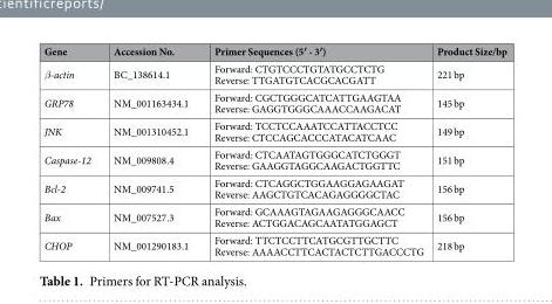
<table><thead><tr><td>Gene</td><td>Accession No.</td><td>Primer Sequences (5′ - 3′)</td><td>Product Size/bp</td></tr></thead><tbody><tr><td>β-actin</td><td>BC_138614.1</td><td>Forward: CTGTCCCTGTATGCCTCTG Reverse: TTGATGTCACGCACGATT</td><td>221 bp</td></tr><tr><td>GRP78</td><td>NM_001163434.1</td><td>Forward: CGCTGGGCATCATTGAAGTAA Reverse: GAGGTGGGCAAACCAAGACAT</td><td>145 bp</td></tr><tr><td>JNK</td><td>NM_001310452.1</td><td>Forward: TCCTCCAAATCCATTACCTCC Reverse: CTCCAGCACCCATACATCAAC</td><td>149 bp</td></tr><tr><td>Caspase-12</td><td>NM_009808.4</td><td>Forward: CTCAATAGTGGGCATCTGGGT Reverse: GAAGGTAGGCAAGACTGGTTC</td><td>151 bp</td></tr><tr><td>Bcl-2</td><td>NM_009741.5</td><td>Forward: CTCAGGCTGGAAGGAGAAGAT Reverse: AAGCTGTCACAGAGGGGCTAC</td><td>156 bp</td></tr><tr><td>Bax</td><td>NM_007527.3</td><td>Forward: GCAAAGTAGAAGAGGGCAACC Reverse: ACTGGACAGCAATATGGAGCT</td><td>156 bp</td></tr><tr><td>CHOP</td><td>NM_001290183.1</td><td>Forward: TTCTCCTTCATGCGTTGCTTC Reverse: AAAACCTTCACTACTCTTGACCCTG</td><td>218 bp</td></tr></tbody></table>